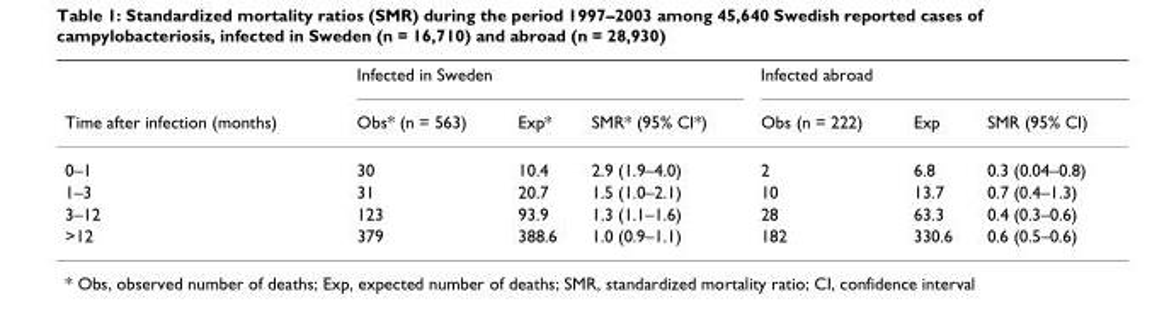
<table><thead><tr><td rowspan="2">Time after infection (months)</td><td colspan="3">Infected in Sweden</td><td colspan="3">Infected abroad</td></tr><tr><td>Obs* (n = 563)</td><td>Exp*</td><td>SMR* (95% CI*)</td><td>Obs (n = 222)</td><td>Exp</td><td>SMR (95% CI)</td></tr></thead><tbody><tr><td>0–1</td><td>30</td><td>10.4</td><td>2.9 (1.9–4.0)</td><td>2</td><td>6.8</td><td>0.3 (0.04–0.8)</td></tr><tr><td>1–3</td><td>31</td><td>20.7</td><td>1.5 (1.0–2.1)</td><td>10</td><td>13.7</td><td>0.7 (0.4–1.3)</td></tr><tr><td>3–12</td><td>123</td><td>93.9</td><td>1.3 (1.1–1.6)</td><td>28</td><td>63.3</td><td>0.4 (0.3–0.6)</td></tr><tr><td>&gt;12</td><td>379</td><td>388.6</td><td>1.0 (0.9–1.1)</td><td>182</td><td>330.6</td><td>0.6 (0.5–0.6)</td></tr></tbody></table>